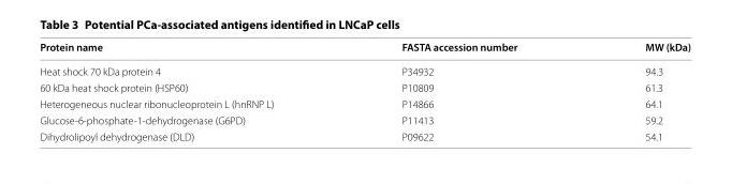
<table><thead><tr><td>Protein name</td><td>FASTA accession number</td><td>MW (kDa)</td></tr></thead><tbody><tr><td>Heat shock 70 kDa protein 4</td><td>P34932</td><td>94.3</td></tr><tr><td>60 kDa heat shock protein (HSP60)</td><td>P10809</td><td>61.3</td></tr><tr><td>Heterogeneous nuclear ribonucleoprotein L (hnRNP L)</td><td>P14866</td><td>64.1</td></tr><tr><td>Glucose‑6‑phosphate‑1‑dehydrogenase (G6PD)</td><td>P11413</td><td>59.2</td></tr><tr><td>Dihydrolipoyl dehydrogenase (DLD)</td><td>P09622</td><td>54.1</td></tr></tbody></table>